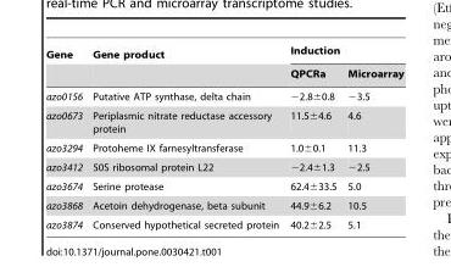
<table><thead><tr><td rowspan="2">Gene</td><td rowspan="2">Gene product</td><td colspan="2">Induction</td></tr><tr><td>QPCRa</td><td>Microarray</td></tr></thead><tbody><tr><td>azo0156</td><td>Putative ATP synthase, delta chain</td><td>−2.8±0.8</td><td>−3.5</td></tr><tr><td>azo0673</td><td>Periplasmic nitrate reductase accessory protein</td><td>11.5±4.6</td><td>4.6</td></tr><tr><td>azo3294</td><td>Protoheme IX farnesyltransferase</td><td>1.0±0.1</td><td>11.3</td></tr><tr><td>azo3412</td><td>50S ribosomal protein L22</td><td>−2.4±1.3</td><td>−2.5</td></tr><tr><td>azo3674</td><td>Serine protease</td><td>62.4±33.5</td><td>5.0</td></tr><tr><td>azo3868</td><td>Acetoin dehydrogenase, beta subunit</td><td>44.9±6.2</td><td>10.5</td></tr><tr><td>azo3874</td><td>Conserved hypothetical secreted protein</td><td>40.2±2.5</td><td>5.1</td></tr></tbody></table>